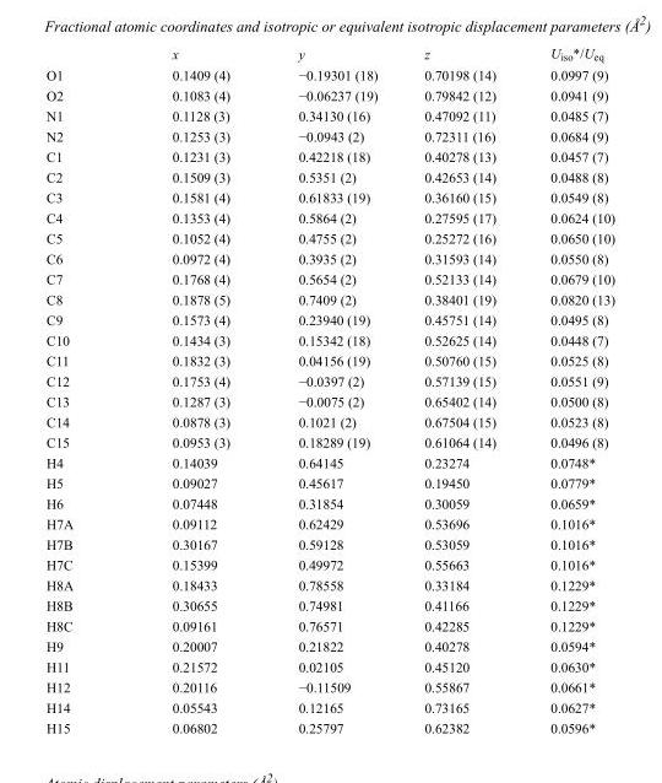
<table><thead><tr><td></td><td>x</td><td>y</td><td>z</td><td>U<sub>iso</sub>*/U<sub>eq</sub></td></tr></thead><tbody><tr><td>O1</td><td>0.1409 (4)</td><td>−0.19301 (18)</td><td>0.70198 (14)</td><td>0.0997 (9)</td></tr><tr><td>O2</td><td>0.1083 (4)</td><td>−0.06237 (19)</td><td>0.79842 (12)</td><td>0.0941 (9)</td></tr><tr><td>N1</td><td>0.1128 (3)</td><td>0.34130 (16)</td><td>0.47092 (11)</td><td>0.0485 (7)</td></tr><tr><td>N2</td><td>0.1253 (3)</td><td>−0.0943 (2)</td><td>0.72311 (16)</td><td>0.0684 (9)</td></tr><tr><td>C1</td><td>0.1231 (3)</td><td>0.42218 (18)</td><td>0.40278 (13)</td><td>0.0457 (7)</td></tr><tr><td>C2</td><td>0.1509 (3)</td><td>0.5351 (2)</td><td>0.42653 (14)</td><td>0.0488 (8)</td></tr><tr><td>C3</td><td>0.1581 (4)</td><td>0.61833 (19)</td><td>0.36160 (15)</td><td>0.0549 (8)</td></tr><tr><td>C4</td><td>0.1353 (4)</td><td>0.5864 (2)</td><td>0.27595 (17)</td><td>0.0624 (10)</td></tr><tr><td>C5</td><td>0.1052 (4)</td><td>0.4755 (2)</td><td>0.25272 (16)</td><td>0.0650 (10)</td></tr><tr><td>C6</td><td>0.0972 (4)</td><td>0.3935 (2)</td><td>0.31593 (14)</td><td>0.0550 (8)</td></tr><tr><td>C7</td><td>0.1768 (4)</td><td>0.5654 (2)</td><td>0.52133 (14)</td><td>0.0679 (10)</td></tr><tr><td>C8</td><td>0.1878 (5)</td><td>0.7409 (2)</td><td>0.38401 (19)</td><td>0.0820 (13)</td></tr><tr><td>C9</td><td>0.1573 (4)</td><td>0.23940 (19)</td><td>0.45751 (14)</td><td>0.0495 (8)</td></tr><tr><td>C10</td><td>0.1434 (3)</td><td>0.15342 (18)</td><td>0.52625 (14)</td><td>0.0448 (7)</td></tr><tr><td>C11</td><td>0.1832 (3)</td><td>0.04156 (19)</td><td>0.50760 (15)</td><td>0.0525 (8)</td></tr><tr><td>C12</td><td>0.1753 (4)</td><td>−0.0397 (2)</td><td>0.57139 (15)</td><td>0.0551 (9)</td></tr><tr><td>C13</td><td>0.1287 (3)</td><td>−0.0075 (2)</td><td>0.65402 (14)</td><td>0.0500 (8)</td></tr><tr><td>C14</td><td>0.0878 (3)</td><td>0.1021 (2)</td><td>0.67504 (15)</td><td>0.0523 (8)</td></tr><tr><td>C15</td><td>0.0953 (3)</td><td>0.18289 (19)</td><td>0.61064 (14)</td><td>0.0496 (8)</td></tr><tr><td>H4</td><td>0.14039</td><td>0.64145</td><td>0.23274</td><td>0.0748*</td></tr><tr><td>H5</td><td>0.09027</td><td>0.45617</td><td>0.19450</td><td>0.0779*</td></tr><tr><td>H6</td><td>0.07448</td><td>0.31854</td><td>0.30059</td><td>0.0659*</td></tr><tr><td>H7A</td><td>0.09112</td><td>0.62429</td><td>0.53696</td><td>0.1016*</td></tr><tr><td>H7B</td><td>0.30167</td><td>0.59128</td><td>0.53059</td><td>0.1016*</td></tr><tr><td>H7C</td><td>0.15399</td><td>0.49972</td><td>0.55663</td><td>0.1016*</td></tr><tr><td>H8A</td><td>0.18433</td><td>0.78558</td><td>0.33184</td><td>0.1229*</td></tr><tr><td>H8B</td><td>0.30655</td><td>0.74981</td><td>0.41166</td><td>0.1229*</td></tr><tr><td>H8C</td><td>0.09161</td><td>0.76571</td><td>0.42285</td><td>0.1229*</td></tr><tr><td>H9</td><td>0.20007</td><td>0.21822</td><td>0.40278</td><td>0.0594*</td></tr><tr><td>H11</td><td>0.21572</td><td>0.02105</td><td>0.45120</td><td>0.0630*</td></tr><tr><td>H12</td><td>0.20116</td><td>−0.11509</td><td>0.55867</td><td>0.0661*</td></tr><tr><td>H14</td><td>0.05543</td><td>0.12165</td><td>0.73165</td><td>0.0627*</td></tr><tr><td>H15</td><td>0.06802</td><td>0.25797</td><td>0.62382</td><td>0.0596*</td></tr></tbody></table>